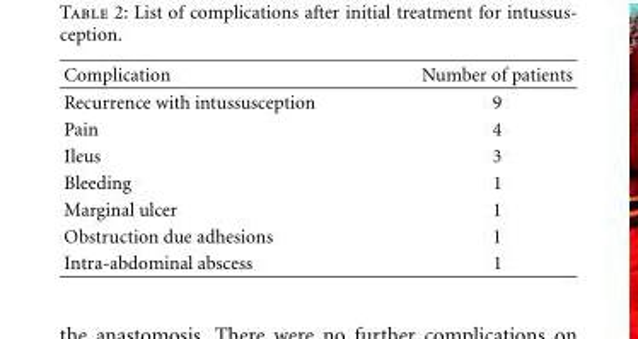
<table><thead><tr><td>Complication</td><td>Number of patients</td></tr></thead><tbody><tr><td>Recurrence with intussusception</td><td>9</td></tr><tr><td>Pain</td><td>4</td></tr><tr><td>Ileus</td><td>3</td></tr><tr><td>Bleeding</td><td>1</td></tr><tr><td>Marginal ulcer</td><td>1</td></tr><tr><td>Obstruction due adhesions</td><td>1</td></tr><tr><td>Intra-abdominal abscess</td><td>1</td></tr></tbody></table>